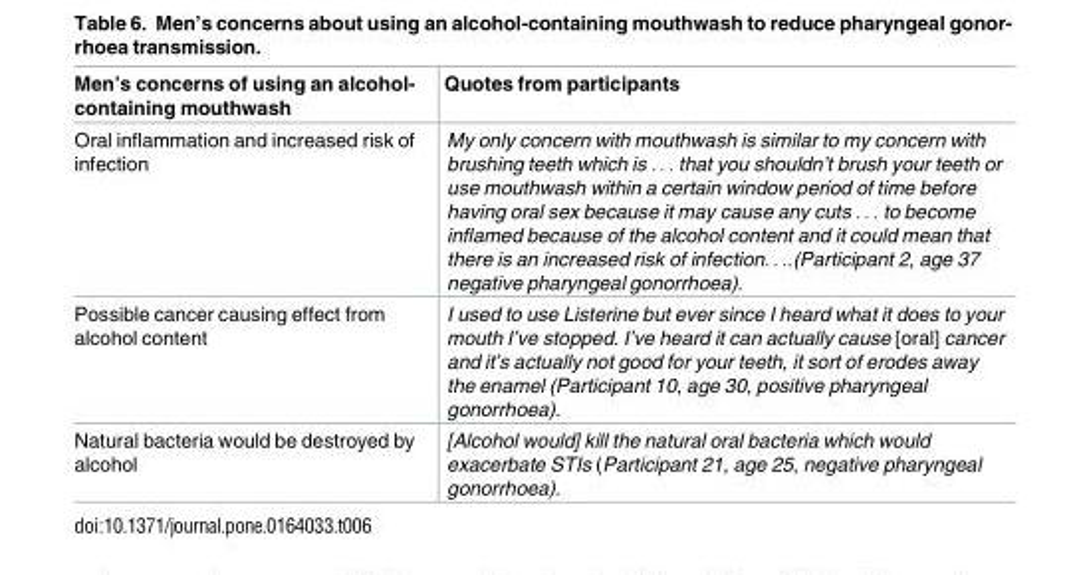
<table><thead><tr><td>Men’s concerns of using an alcohol- containing mouthwash</td><td>Quotes from participants</td></tr></thead><tbody><tr><td>Oral inflammation and increased risk of infection</td><td>My only concern with mouthwash is similar to my concern with brushing teeth which is . . . that you shouldn’t brush your teeth or use mouthwash within a certain window period of time before having oral sex because it may cause any cuts . . . to become inflamed because of the alcohol content and it could mean that there is an increased risk of infection. . ..(Participant 2, age 37 negative pharyngeal gonorrhoea).</td></tr><tr><td>Possible cancer causing effect from alcohol content</td><td>I used to use Listerine but ever since I heard what it does to your mouth I’ve stopped. I’ve heard it can actually cause [oral] cancer and it’s actually not good for your teeth, it sort of erodes away the enamel (Participant 10, age 30, positive pharyngeal gonorrhoea).</td></tr><tr><td>Natural bacteria would be destroyed by alcohol</td><td>[Alcohol would] kill the natural oral bacteria which would exacerbate STIs (Participant 21, age 25, negative pharyngeal gonorrhoea).</td></tr></tbody></table>